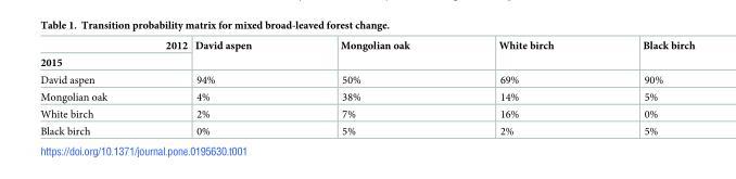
<table><thead><tr><td rowspan="2">2012 2015</td><td rowspan="2">David aspen</td><td rowspan="2">Mongolian oak</td><td rowspan="2">White birch</td><td rowspan="2">Black birch</td></tr><tr></tr></thead><tbody><tr><td>David aspen</td><td>94%</td><td>50%</td><td>69%</td><td>90%</td></tr><tr><td>Mongolian oak</td><td>4%</td><td>38%</td><td>14%</td><td>5%</td></tr><tr><td>White birch</td><td>2%</td><td>7%</td><td>16%</td><td>0%</td></tr><tr><td>Black birch</td><td>0%</td><td>5%</td><td>2%</td><td>5%</td></tr></tbody></table>